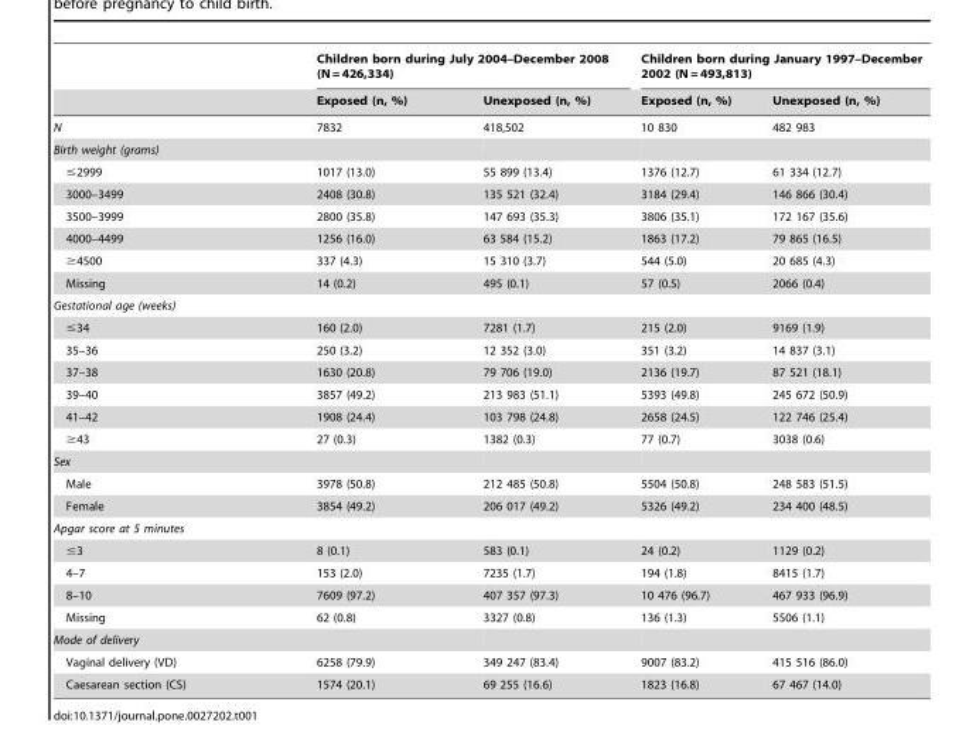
<table><thead><tr><td rowspan="2"></td><td colspan="2">Children born during July 2004–December 2008 (N = 426,334)</td><td colspan="2">Children born during January 1997–December 2002 (N = 493,813)</td></tr><tr><td>Exposed (n, %)</td><td>Unexposed (n, %)</td><td>Exposed (n, %)</td><td>Unexposed (n, %)</td></tr></thead><tbody><tr><td>N</td><td>7832</td><td>418,502</td><td>10 830</td><td>482 983</td></tr><tr><td colspan="5">Birth weight (grams)</td></tr><tr><td>≤2999</td><td>1017 (13.0)</td><td>55 899 (13.4)</td><td>1376 (12.7)</td><td>61 334 (12.7)</td></tr><tr><td>3000–3499</td><td>2408 (30.8)</td><td>135 521 (32.4)</td><td>3184 (29.4)</td><td>146 866 (30.4)</td></tr><tr><td>3500–3999</td><td>2800 (35.8)</td><td>147 693 (35.3)</td><td>3806 (35.1)</td><td>172 167 (35.6)</td></tr><tr><td>4000–4499</td><td>1256 (16.0)</td><td>63 584 (15.2)</td><td>1863 (17.2)</td><td>79 865 (16.5)</td></tr><tr><td>≥4500</td><td>337 (4.3)</td><td>15 310 (3.7)</td><td>544 (5.0)</td><td>20 685 (4.3)</td></tr><tr><td>Missing</td><td>14 (0.2)</td><td>495 (0.1)</td><td>57 (0.5)</td><td>2066 (0.4)</td></tr><tr><td colspan="5">Gestational age (weeks)</td></tr><tr><td>≤34</td><td>160 (2.0)</td><td>7281 (1.7)</td><td>215 (2.0)</td><td>9169 (1.9)</td></tr><tr><td>35–36</td><td>250 (3.2)</td><td>12 352 (3.0)</td><td>351 (3.2)</td><td>14 837 (3.1)</td></tr><tr><td>37–38</td><td>1630 (20.8)</td><td>79 706 (19.0)</td><td>2136 (19.7)</td><td>87 521 (18.1)</td></tr><tr><td>39–40</td><td>3857 (49.2)</td><td>213 983 (51.1)</td><td>5393 (49.8)</td><td>245 672 (50.9)</td></tr><tr><td>41–42</td><td>1908 (24.4)</td><td>103 798 (24.8)</td><td>2658 (24.5)</td><td>122 746 (25.4)</td></tr><tr><td>≥43</td><td>27 (0.3)</td><td>1382 (0.3)</td><td>77 (0.7)</td><td>3038 (0.6)</td></tr><tr><td colspan="5">Sex</td></tr><tr><td>Male</td><td>3978 (50.8)</td><td>212 485 (50.8)</td><td>5504 (50.8)</td><td>248 583 (51.5)</td></tr><tr><td>Female</td><td>3854 (49.2)</td><td>206 017 (49.2)</td><td>5326 (49.2)</td><td>234 400 (48.5)</td></tr><tr><td colspan="5">Apgar score at 5 minutes</td></tr><tr><td>≤3</td><td>8 (0.1)</td><td>583 (0.1)</td><td>24 (0.2)</td><td>1129 (0.2)</td></tr><tr><td>4–7</td><td>153 (2.0)</td><td>7235 (1.7)</td><td>194 (1.8)</td><td>8415 (1.7)</td></tr><tr><td>8–10</td><td>7609 (97.2)</td><td>407 357 (97.3)</td><td>10 476 (96.7)</td><td>467 933 (96.9)</td></tr><tr><td>Missing</td><td>62 (0.8)</td><td>3327 (0.8)</td><td>136 (1.3)</td><td>5506 (1.1)</td></tr><tr><td colspan="5">Mode of delivery</td></tr><tr><td>Vaginal delivery (VD)</td><td>6258 (79.9)</td><td>349 247 (83.4)</td><td>9007 (83.2)</td><td>415 516 (86.0)</td></tr><tr><td>Caesarean section (CS)</td><td>1574 (20.1)</td><td>69 255 (16.6)</td><td>1823 (16.8)</td><td>67 467 (14.0)</td></tr></tbody></table>